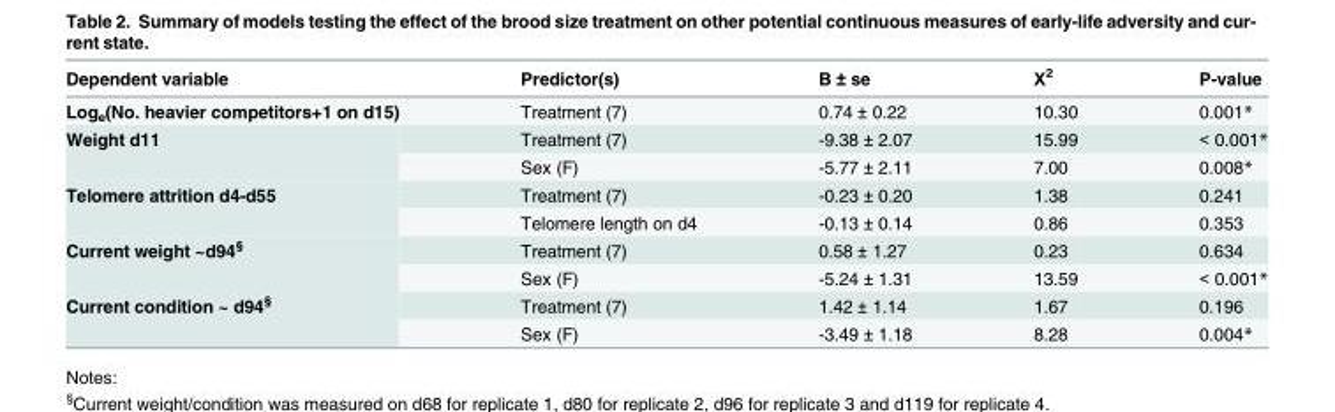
<table><thead><tr><td>Dependent variable</td><td>Predictor(s)</td><td>B ± se</td><td>Χ<sup>2</sup></td><td>P-value</td></tr></thead><tbody><tr><td>Log<sub>e</sub>(No. heavier competitors+1 on d15)</td><td>Treatment (7)</td><td>0.74 ± 0.22</td><td>10.30</td><td>0.001*</td></tr><tr><td rowspan="2">Weight d11</td><td>Treatment (7)</td><td>-9.38 ± 2.07</td><td>15.99</td><td>&lt; 0.001*</td></tr><tr><td>Sex (F)</td><td>-5.77 ± 2.11</td><td>7.00</td><td>0.008*</td></tr><tr><td rowspan="2">Telomere attrition d4-d55</td><td>Treatment (7)</td><td>-0.23 ± 0.20</td><td>1.38</td><td>0.241</td></tr><tr><td>Telomere length on d4</td><td>-0.13 ± 0.14</td><td>0.86</td><td>0.353</td></tr><tr><td rowspan="2">Current weight ~d94<sup>§</sup></td><td>Treatment (7)</td><td>0.58 ± 1.27</td><td>0.23</td><td>0.634</td></tr><tr><td>Sex (F)</td><td>-5.24 ± 1.31</td><td>13.59</td><td>&lt; 0.001*</td></tr><tr><td rowspan="2">Current condition ~ d94<sup>§</sup></td><td>Treatment (7)</td><td>1.42 ± 1.14</td><td>1.67</td><td>0.196</td></tr><tr><td>Sex (F)</td><td>-3.49 ± 1.18</td><td>8.28</td><td>0.004*</td></tr></tbody></table>